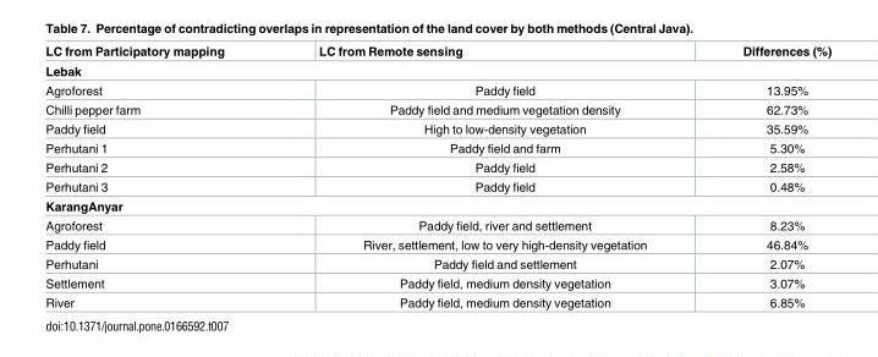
<table><thead><tr><td>LC from Participatory mapping</td><td>LC from Remote sensing</td><td>Differences (%)</td></tr></thead><tbody><tr><td colspan="3">Lebak</td></tr><tr><td>Agroforest</td><td>Paddy field</td><td>13.95%</td></tr><tr><td>Chilli pepper farm</td><td>Paddy field and medium vegetation density</td><td>62.73%</td></tr><tr><td>Paddy field</td><td>High to low-density vegetation</td><td>35.59%</td></tr><tr><td>Perhutani 1</td><td>Paddy field and farm</td><td>5.30%</td></tr><tr><td>Perhutani 2</td><td>Paddy field</td><td>2.58%</td></tr><tr><td>Perhutani 3</td><td>Paddy field</td><td>0.48%</td></tr><tr><td colspan="3">KarangAnyar</td></tr><tr><td>Agroforest</td><td>Paddy field, river and settlement</td><td>8.23%</td></tr><tr><td>Paddy field</td><td>River, settlement, low to very high-density vegetation</td><td>46.84%</td></tr><tr><td>Perhutani</td><td>Paddy field and settlement</td><td>2.07%</td></tr><tr><td>Settlement</td><td>Paddy field, medium density vegetation</td><td>3.07%</td></tr><tr><td>River</td><td>Paddy field, medium density vegetation</td><td>6.85%</td></tr></tbody></table>